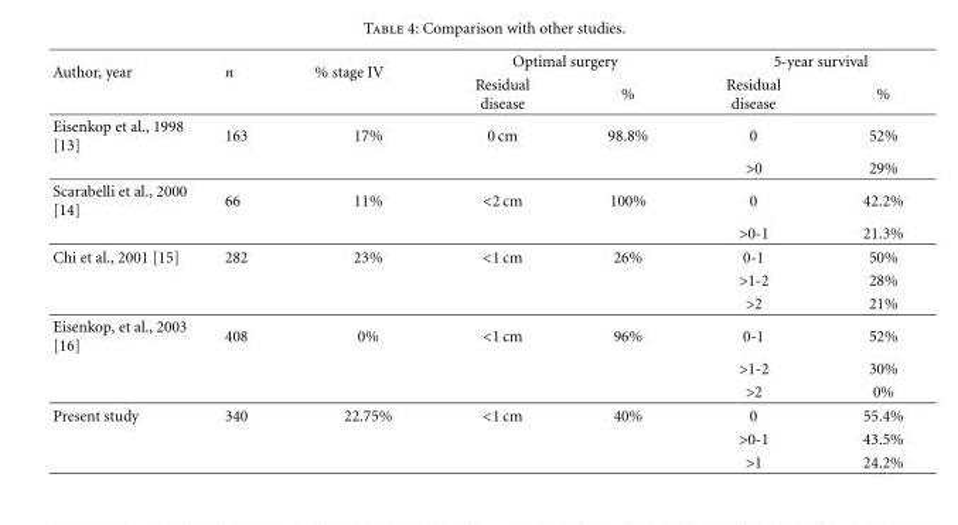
<table><thead><tr><td rowspan="2">Author, year</td><td rowspan="2">n</td><td rowspan="2">% stage IV</td><td colspan="2">Optimal surgery</td><td colspan="2">5-year survival</td></tr><tr><td>Residual disease</td><td>%</td><td>Residual disease</td><td>%</td></tr></thead><tbody><tr><td rowspan="2">Eisenkop et al., 1998 [13]</td><td>163</td><td>17%</td><td>0 cm</td><td>98.8%</td><td>0</td><td>52%</td></tr><tr><td></td><td></td><td></td><td></td><td>&gt;0</td><td>29%</td></tr><tr><td rowspan="2">Scarabelli et al., 2000 [14]</td><td>66</td><td>11%</td><td>&lt;2 cm</td><td>100%</td><td>0</td><td>42.2%</td></tr><tr><td></td><td></td><td></td><td></td><td>&gt;0-1</td><td>21.3%</td></tr><tr><td rowspan="3">Chi et al., 2001 [15]</td><td>282</td><td>23%</td><td>&lt;1 cm</td><td>26%</td><td>0-1</td><td>50%</td></tr><tr><td></td><td></td><td></td><td></td><td>&gt;1-2</td><td>28%</td></tr><tr><td></td><td></td><td></td><td></td><td>&gt;2</td><td>21%</td></tr><tr><td rowspan="3">Eisenkop, et al., 2003 [16]</td><td>408</td><td>0%</td><td>&lt;1 cm</td><td>96%</td><td>0-1</td><td>52%</td></tr><tr><td></td><td></td><td></td><td></td><td>&gt;1-2</td><td>30%</td></tr><tr><td></td><td></td><td></td><td></td><td>&gt;2</td><td>0%</td></tr><tr><td rowspan="3">Present study</td><td>340</td><td>22.75%</td><td>&lt;1 cm</td><td>40%</td><td>0</td><td>55.4%</td></tr><tr><td></td><td></td><td></td><td></td><td>&gt;0-1</td><td>43.5%</td></tr><tr><td></td><td></td><td></td><td></td><td>&gt;1</td><td>24.2%</td></tr></tbody></table>